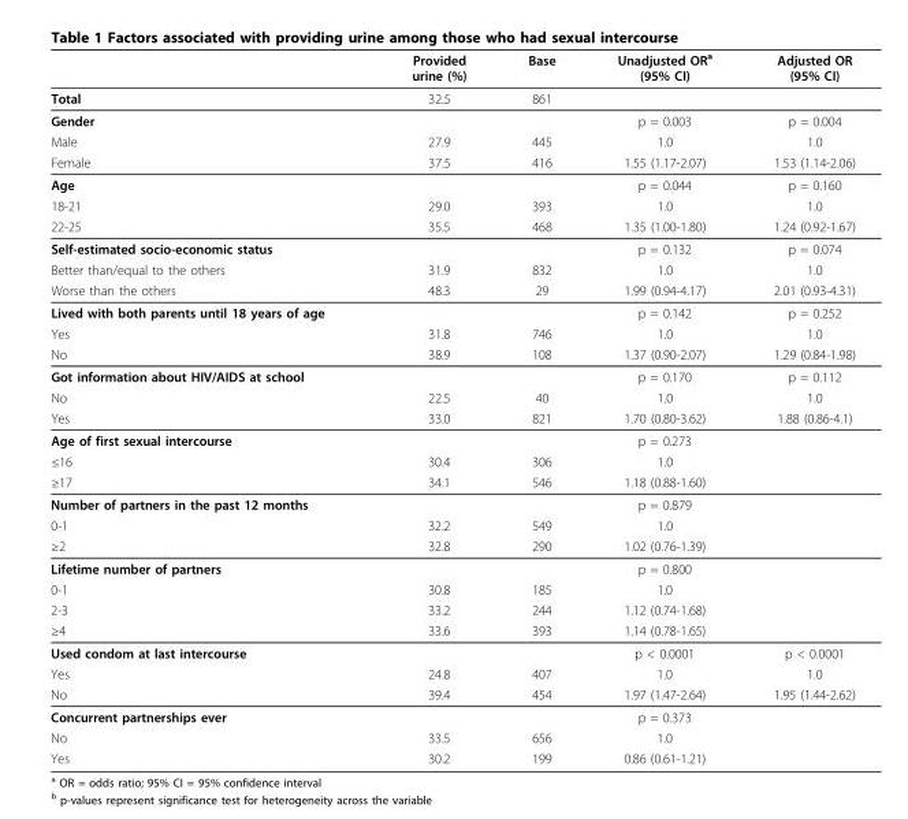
<table><thead><tr><td></td><td>Provided urine (%)</td><td>Base</td><td>Unadjusted OR<sup>a</sup> (95% CI)</td><td>Adjusted OR (95% CI)</td></tr></thead><tbody><tr><td>Total</td><td>32.5</td><td>861</td><td></td><td></td></tr><tr><td>Gender</td><td></td><td></td><td>p = 0.003</td><td>p = 0.004</td></tr><tr><td>Male</td><td>27.9</td><td>445</td><td>1.0</td><td>1.0</td></tr><tr><td>Female</td><td>37.5</td><td>416</td><td>1.55 (1.17-2.07)</td><td>1.53 (1.14-2.06)</td></tr><tr><td>Age</td><td></td><td></td><td>p = 0.044</td><td>p = 0.160</td></tr><tr><td>18-21</td><td>29.0</td><td>393</td><td>1.0</td><td>1.0</td></tr><tr><td>22-25</td><td>35.5</td><td>468</td><td>1.35 (1.00-1.80)</td><td>1.24 (0.92-1.67)</td></tr><tr><td>Self-estimated socio-economic status</td><td></td><td></td><td>p = 0.132</td><td>p = 0.074</td></tr><tr><td>Better than/equal to the others</td><td>31.9</td><td>832</td><td>1.0</td><td>1.0</td></tr><tr><td>Worse than the others</td><td>48.3</td><td>29</td><td>1.99 (0.94-4.17)</td><td>2.01 (0.93-4.31)</td></tr><tr><td>Lived with both parents until 18 years of age</td><td></td><td></td><td>p = 0.142</td><td>p = 0.252</td></tr><tr><td>Yes</td><td>31.8</td><td>746</td><td>1.0</td><td>1.0</td></tr><tr><td>No</td><td>38.9</td><td>108</td><td>1.37 (0.90-2.07)</td><td>1.29 (0.84-1.98)</td></tr><tr><td>Got information about HIV/AIDS at school</td><td></td><td></td><td>p = 0.170</td><td>p = 0.112</td></tr><tr><td>No</td><td>22.5</td><td>40</td><td>1.0</td><td>1.0</td></tr><tr><td>Yes</td><td>33.0</td><td>821</td><td>1.70 (0.80-3.62)</td><td>1.88 (0.86-4.1)</td></tr><tr><td>Age of first sexual intercourse</td><td></td><td></td><td>p = 0.273</td><td></td></tr><tr><td>≤16</td><td>30.4</td><td>306</td><td>1.0</td><td></td></tr><tr><td>≥17</td><td>34.1</td><td>546</td><td>1.18 (0.88-1.60)</td><td></td></tr><tr><td>Number of partners in the past 12 months</td><td></td><td></td><td>p = 0.879</td><td></td></tr><tr><td>0-1</td><td>32.2</td><td>549</td><td>1.0</td><td></td></tr><tr><td>≥2</td><td>32.8</td><td>290</td><td>1.02 (0.76-1.39)</td><td></td></tr><tr><td>Lifetime number of partners</td><td></td><td></td><td>p = 0.800</td><td></td></tr><tr><td>0-1</td><td>30.8</td><td>185</td><td>1.0</td><td></td></tr><tr><td>2-3</td><td>33.2</td><td>244</td><td>1.12 (0.74-1.68)</td><td></td></tr><tr><td>≥4</td><td>33.6</td><td>393</td><td>1.14 (0.78-1.65)</td><td></td></tr><tr><td>Used condom at last intercourse</td><td></td><td></td><td>p &lt; 0.0001</td><td>p &lt; 0.0001</td></tr><tr><td>Yes</td><td>24.8</td><td>407</td><td>1.0</td><td>1.0</td></tr><tr><td>No</td><td>39.4</td><td>454</td><td>1.97 (1.47-2.64)</td><td>1.95 (1.44-2.62)</td></tr><tr><td>Concurrent partnerships ever</td><td></td><td></td><td>p = 0.373</td><td></td></tr><tr><td>No</td><td>33.5</td><td>656</td><td>1.0</td><td></td></tr><tr><td>Yes</td><td>30.2</td><td>199</td><td>0.86 (0.61-1.21)</td><td></td></tr></tbody></table>